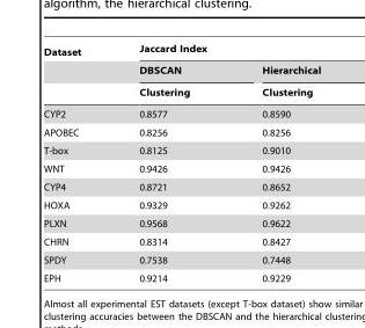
<table><thead><tr><td rowspan="3">Dataset</td><td colspan="2">Jaccard Index</td></tr><tr><td rowspan="2">DBSCAN Clustering</td><td rowspan="2">Hierarchical Clustering</td></tr><tr></tr></thead><tbody><tr><td>CYP2</td><td>0.8577</td><td>0.8590</td></tr><tr><td>APOBEC</td><td>0.8256</td><td>0.8256</td></tr><tr><td>T-box</td><td>0.8125</td><td>0.9010</td></tr><tr><td>WNT</td><td>0.9426</td><td>0.9426</td></tr><tr><td>CYP4</td><td>0.8721</td><td>0.8652</td></tr><tr><td>HOXA</td><td>0.9329</td><td>0.9262</td></tr><tr><td>PLXN</td><td>0.9568</td><td>0.9622</td></tr><tr><td>CHRN</td><td>0.8314</td><td>0.8427</td></tr><tr><td>SPDY</td><td>0.7538</td><td>0.7448</td></tr><tr><td>EPH</td><td>0.9214</td><td>0.9229</td></tr></tbody></table>